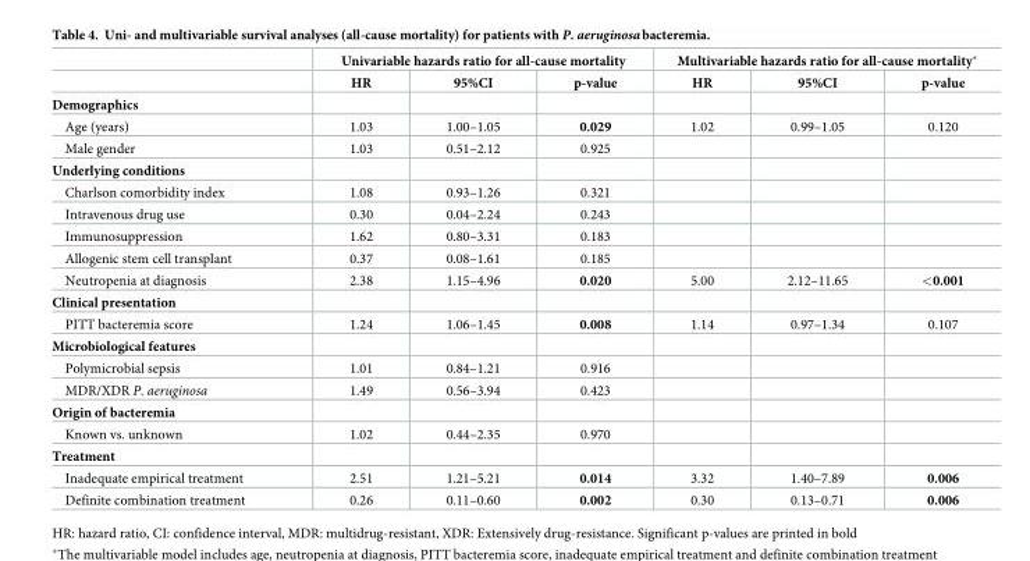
<table><thead><tr><td rowspan="2"></td><td colspan="3">Univariable hazards ratio for all-cause mortality</td><td colspan="3">Multivariable hazards ratio for all-cause mortality*</td></tr><tr><td>HR</td><td>95%CI</td><td>p-value</td><td>HR</td><td>95%CI</td><td>p-value</td></tr></thead><tbody><tr><td colspan="7">Demographics</td></tr><tr><td>Age (years)</td><td>1.03</td><td>1.00–1.05</td><td>0.029</td><td>1.02</td><td>0.99–1.05</td><td>0.120</td></tr><tr><td>Male gender</td><td>1.03</td><td>0.51–2.12</td><td>0.925</td><td></td><td></td><td></td></tr><tr><td colspan="7">Underlying conditions</td></tr><tr><td>Charlson comorbidity index</td><td>1.08</td><td>0.93–1.26</td><td>0.321</td><td></td><td></td><td></td></tr><tr><td>Intravenous drug use</td><td>0.30</td><td>0.04–2.24</td><td>0.243</td><td></td><td></td><td></td></tr><tr><td>Immunosuppression</td><td>1.62</td><td>0.80–3.31</td><td>0.183</td><td></td><td></td><td></td></tr><tr><td>Allogenic stem cell transplant</td><td>0.37</td><td>0.08–1.61</td><td>0.185</td><td></td><td></td><td></td></tr><tr><td>Neutropenia at diagnosis</td><td>2.38</td><td>1.15–4.96</td><td>0.020</td><td>5.00</td><td>2.12–11.65</td><td>&lt;0.001</td></tr><tr><td colspan="7">Clinical presentation</td></tr><tr><td>PITT bacteremia score</td><td>1.24</td><td>1.06–1.45</td><td>0.008</td><td>1.14</td><td>0.97–1.34</td><td>0.107</td></tr><tr><td colspan="7">Microbiological features</td></tr><tr><td>Polymicrobial sepsis</td><td>1.01</td><td>0.84–1.21</td><td>0.916</td><td></td><td></td><td></td></tr><tr><td>MDR/XDR P. aeruginosa</td><td>1.49</td><td>0.56–3.94</td><td>0.423</td><td></td><td></td><td></td></tr><tr><td colspan="7">Origin of bacteremia</td></tr><tr><td>Known vs. unknown</td><td>1.02</td><td>0.44–2.35</td><td>0.970</td><td></td><td></td><td></td></tr><tr><td colspan="7">Treatment</td></tr><tr><td>Inadequate empirical treatment</td><td>2.51</td><td>1.21–5.21</td><td>0.014</td><td>3.32</td><td>1.40–7.89</td><td>0.006</td></tr><tr><td>Definite combination treatment</td><td>0.26</td><td>0.11–0.60</td><td>0.002</td><td>0.30</td><td>0.13–0.71</td><td>0.006</td></tr></tbody></table>